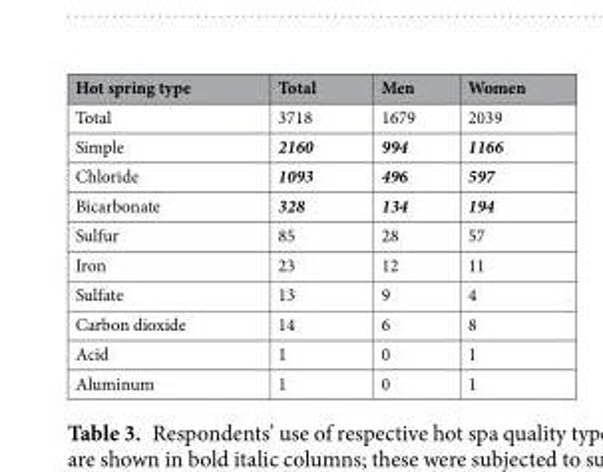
<table><thead><tr><td>Hot spring type</td><td>Total</td><td>Men</td><td>Women</td></tr></thead><tbody><tr><td>Total</td><td>3718</td><td>1679</td><td>2039</td></tr><tr><td>Simple</td><td>2160</td><td>994</td><td>1166</td></tr><tr><td>Chloride</td><td>1093</td><td>496</td><td>597</td></tr><tr><td>Bicarbonate</td><td>328</td><td>134</td><td>194</td></tr><tr><td>Sulfur</td><td>85</td><td>28</td><td>57</td></tr><tr><td>Iron</td><td>23</td><td>12</td><td>11</td></tr><tr><td>Sulfate</td><td>13</td><td>9</td><td>4</td></tr><tr><td>Carbon dioxide</td><td>14</td><td>6</td><td>8</td></tr><tr><td>Acid</td><td>1</td><td>0</td><td>1</td></tr><tr><td>Aluminum</td><td>1</td><td>0</td><td>1</td></tr></tbody></table>